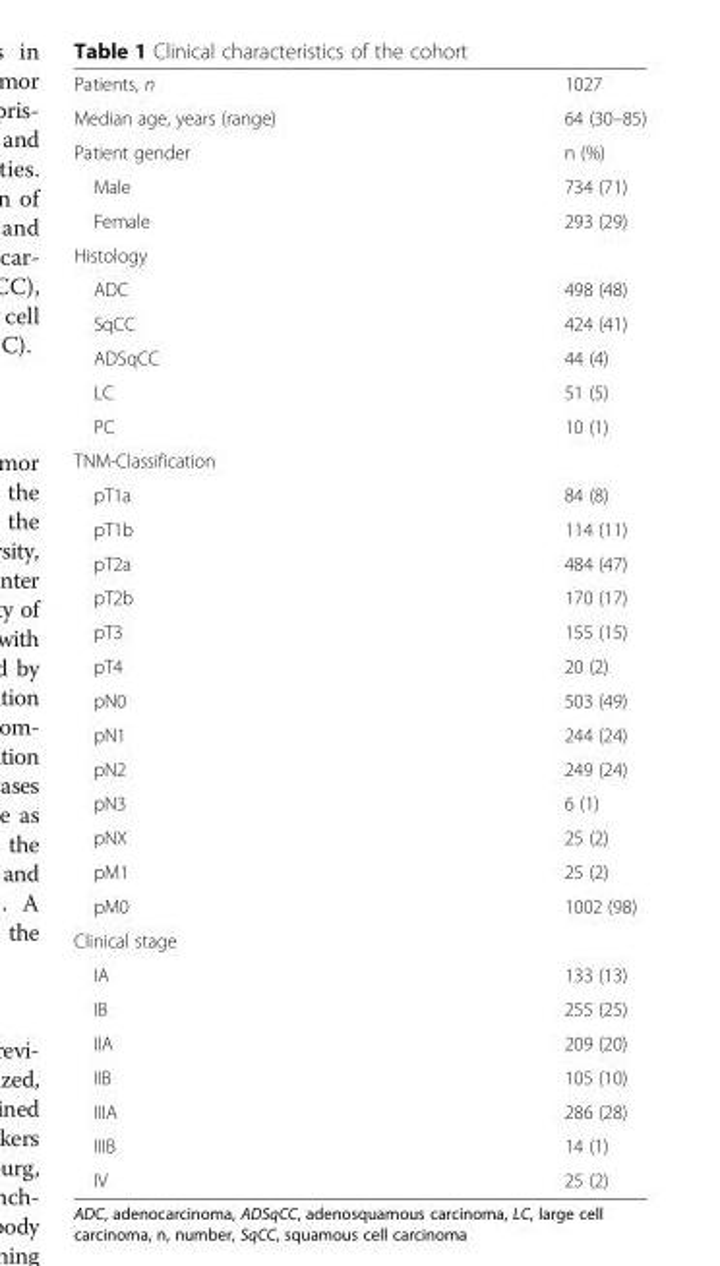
<table><tbody><tr><td>Patients, n</td><td>1027</td></tr><tr><td>Median age, years (range)</td><td>64 (30–85)</td></tr><tr><td>Patient gender</td><td>n (%)</td></tr><tr><td>Male</td><td>734 (71)</td></tr><tr><td>Female</td><td>293 (29)</td></tr><tr><td colspan="2">Histology</td></tr><tr><td>ADC</td><td>498 (48)</td></tr><tr><td>SqCC</td><td>424 (41)</td></tr><tr><td>ADSqCC</td><td>44 (4)</td></tr><tr><td>LC</td><td>51 (5)</td></tr><tr><td>PC</td><td>10 (1)</td></tr><tr><td colspan="2">TNM-Classification</td></tr><tr><td>pT1a</td><td>84 (8)</td></tr><tr><td>pT1b</td><td>114 (11)</td></tr><tr><td>pT2a</td><td>484 (47)</td></tr><tr><td>pT2b</td><td>170 (17)</td></tr><tr><td>pT3</td><td>155 (15)</td></tr><tr><td>pT4</td><td>20 (2)</td></tr><tr><td>pN0</td><td>503 (49)</td></tr><tr><td>pN1</td><td>244 (24)</td></tr><tr><td>pN2</td><td>249 (24)</td></tr><tr><td>pN3</td><td>6 (1)</td></tr><tr><td>pNX</td><td>25 (2)</td></tr><tr><td>pM1</td><td>25 (2)</td></tr><tr><td>pM0</td><td>1002 (98)</td></tr><tr><td colspan="2">Clinical stage</td></tr><tr><td>IA</td><td>133 (13)</td></tr><tr><td>IB</td><td>255 (25)</td></tr><tr><td>IIA</td><td>209 (20)</td></tr><tr><td>IIB</td><td>105 (10)</td></tr><tr><td>IIIA</td><td>286 (28)</td></tr><tr><td>IIIB</td><td>14 (1)</td></tr><tr><td>IV</td><td>25 (2)</td></tr></tbody></table>